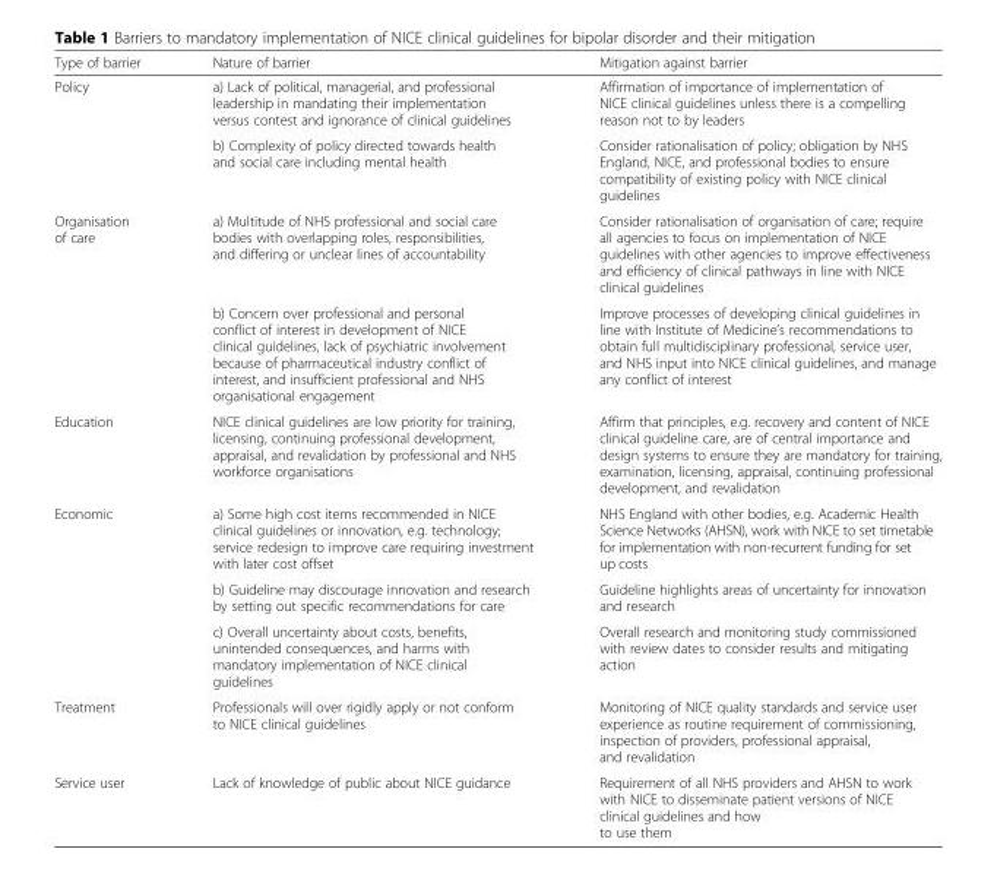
<table><thead><tr><td>Type of barrier</td><td>Nature of barrier</td><td>Mitigation against barrier</td></tr></thead><tbody><tr><td rowspan="2">Policy</td><td>a) Lack of political, managerial, and professional leadership in mandating their implementation versus contest and ignorance of clinical guidelines</td><td>Affirmation of importance of implementation of NICE clinical guidelines unless there is a compelling reason not to by leaders</td></tr><tr><td>b) Complexity of policy directed towards health and social care including mental health</td><td>Consider rationalisation of policy; obligation by NHS England, NICE, and professional bodies to ensure compatibility of existing policy with NICE clinical guidelines</td></tr><tr><td rowspan="2">Organisation of care</td><td>a) Multitude of NHS professional and social care bodies with overlapping roles, responsibilities, and differing or unclear lines of accountability</td><td>Consider rationalisation of organisation of care; require all agencies to focus on implementation of NICE guidelines with other agencies to improve effectiveness and efficiency of clinical pathways in line with NICE clinical guidelines</td></tr><tr><td>b) Concern over professional and personal conflict of interest in development of NICE clinical guidelines, lack of psychiatric involvement because of pharmaceutical industry conflict of interest, and insufficient professional and NHS organisational engagement</td><td>Improve processes of developing clinical guidelines in line with Institute of Medicine’s recommendations to obtain full multidisciplinary professional, service user, and NHS input into NICE clinical guidelines, and manage any conflict of interest</td></tr><tr><td>Education</td><td>NICE clinical guidelines are low priority for training, licensing, continuing professional development, appraisal, and revalidation by professional and NHS workforce organisations</td><td>Affirm that principles, e.g. recovery and content of NICE clinical guideline care, are of central importance and design systems to ensure they are mandatory for training, examination, licensing, appraisal, continuing professional development, and revalidation</td></tr><tr><td rowspan="3">Economic</td><td>a) Some high cost items recommended in NICE clinical guidelines or innovation, e.g. technology; service redesign to improve care requiring investment with later cost offset</td><td>NHS England with other bodies, e.g. Academic Health Science Networks (AHSN), work with NICE to set timetable for implementation with non-recurrent funding for set up costs</td></tr><tr><td>b) Guideline may discourage innovation and research by setting out specific recommendations for care</td><td>Guideline highlights areas of uncertainty for innovation and research</td></tr><tr><td>c) Overall uncertainty about costs, benefits, unintended consequences, and harms with mandatory implementation of NICE clinical guidelines</td><td>Overall research and monitoring study commissioned with review dates to consider results and mitigating action</td></tr><tr><td>Treatment</td><td>Professionals will over rigidly apply or not conform to NICE clinical guidelines</td><td>Monitoring of NICE quality standards and service user experience as routine requirement of commissioning, inspection of providers, professional appraisal, and revalidation</td></tr><tr><td>Service user</td><td>Lack of knowledge of public about NICE guidance</td><td>Requirement of all NHS providers and AHSN to work with NICE to disseminate patient versions of NICE clinical guidelines and how to use them</td></tr></tbody></table>